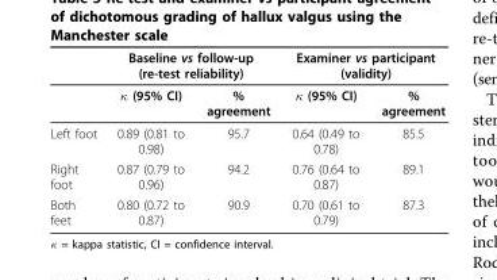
<table><thead><tr><td rowspan="2"></td><td colspan="2">Baseline vs follow-up (re-test reliability)</td><td colspan="2">Examiner vs participant (validity)</td></tr><tr><td>κ (95% CI)</td><td>% agreement</td><td>κ (95% CI)</td><td>% agreement</td></tr></thead><tbody><tr><td>Left foot</td><td>0.89 (0.81 to 0.98)</td><td>95.7</td><td>0.64 (0.49 to 0.78)</td><td>85.5</td></tr><tr><td>Right foot</td><td>0.87 (0.79 to 0.96)</td><td>94.2</td><td>0.76 (0.64 to 0.87)</td><td>89.1</td></tr><tr><td>Both feet</td><td>0.80 (0.72 to 0.87)</td><td>90.9</td><td>0.70 (0.61 to 0.79)</td><td>87.3</td></tr></tbody></table>